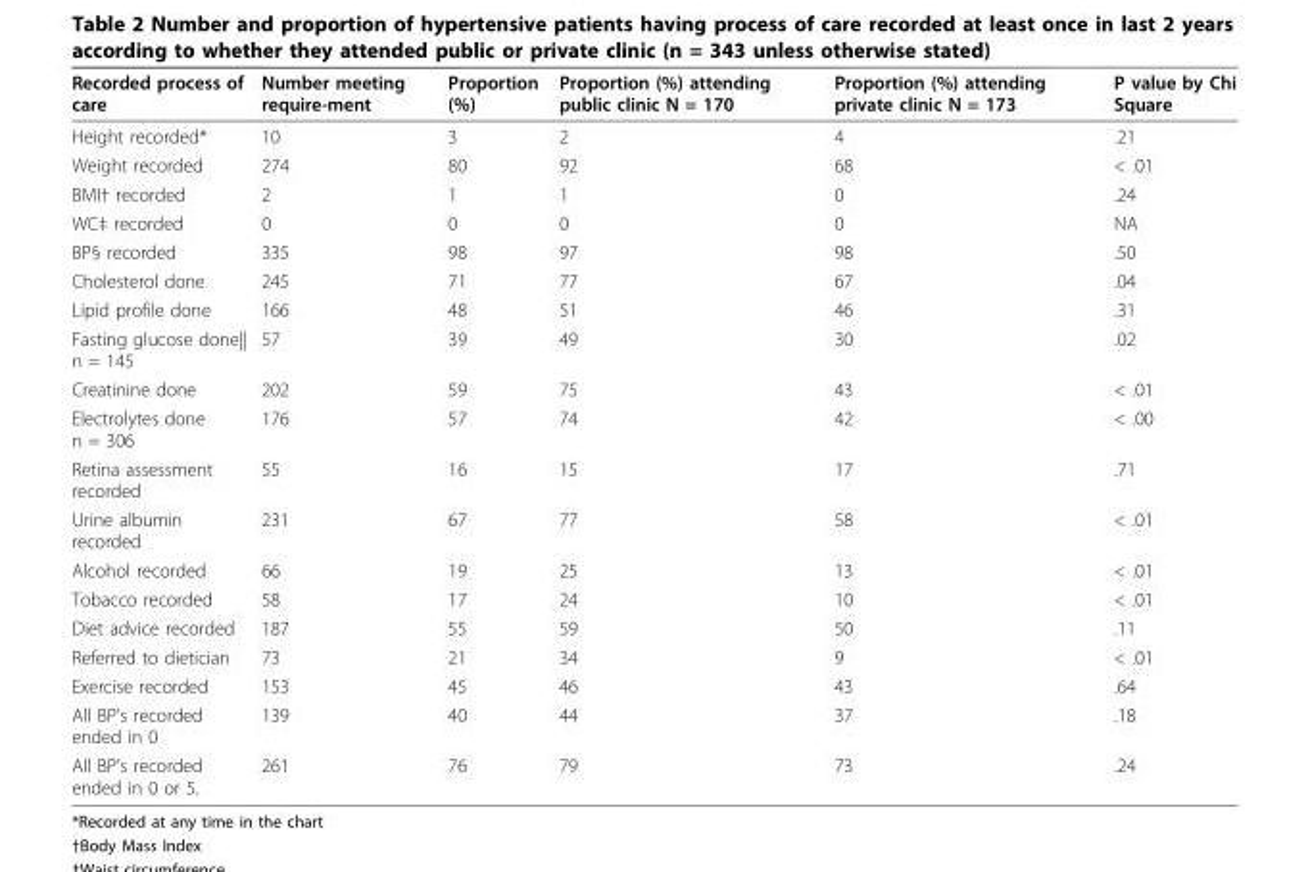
<table><thead><tr><td>Recorded process of care</td><td>Number meeting require-ment</td><td>Proportion (%)</td><td>Proportion (%) attending public clinic N = 170</td><td>Proportion (%) attending private clinic N = 173</td><td>P value by Chi Square</td></tr></thead><tbody><tr><td>Height recorded*</td><td>10</td><td>3</td><td>2</td><td>4</td><td>.21</td></tr><tr><td>Weight recorded</td><td>274</td><td>80</td><td>92</td><td>68</td><td>&lt; .01</td></tr><tr><td>BMI† recorded</td><td>2</td><td>1</td><td>1</td><td>0</td><td>.24</td></tr><tr><td>WC‡ recorded</td><td>0</td><td>0</td><td>0</td><td>0</td><td>NA</td></tr><tr><td>BP§ recorded</td><td>335</td><td>98</td><td>97</td><td>98</td><td>.50</td></tr><tr><td>Cholesterol done</td><td>245</td><td>71</td><td>77</td><td>67</td><td>.04</td></tr><tr><td>Lipid profile done</td><td>166</td><td>48</td><td>51</td><td>46</td><td>.31</td></tr><tr><td>Fasting glucose done|| n = 145</td><td>57</td><td>39</td><td>49</td><td>30</td><td>.02</td></tr><tr><td>Creatinine done</td><td>202</td><td>59</td><td>75</td><td>43</td><td>&lt; .01</td></tr><tr><td>Electrolytes done n = 306</td><td>176</td><td>57</td><td>74</td><td>42</td><td>&lt; .00</td></tr><tr><td>Retina assessment recorded</td><td>55</td><td>16</td><td>15</td><td>17</td><td>.71</td></tr><tr><td>Urine albumin recorded</td><td>231</td><td>67</td><td>77</td><td>58</td><td>&lt; .01</td></tr><tr><td>Alcohol recorded</td><td>66</td><td>19</td><td>25</td><td>13</td><td>&lt; .01</td></tr><tr><td>Tobacco recorded</td><td>58</td><td>17</td><td>24</td><td>10</td><td>&lt; .01</td></tr><tr><td>Diet advice recorded</td><td>187</td><td>55</td><td>59</td><td>50</td><td>.11</td></tr><tr><td>Referred to dietician</td><td>73</td><td>21</td><td>34</td><td>9</td><td>&lt; .01</td></tr><tr><td>Exercise recorded</td><td>153</td><td>45</td><td>46</td><td>43</td><td>.64</td></tr><tr><td>All BP’s recorded ended in 0</td><td>139</td><td>40</td><td>44</td><td>37</td><td>.18</td></tr><tr><td>All BP’s recorded ended in 0 or 5.</td><td>261</td><td>76</td><td>79</td><td>73</td><td>.24</td></tr></tbody></table>